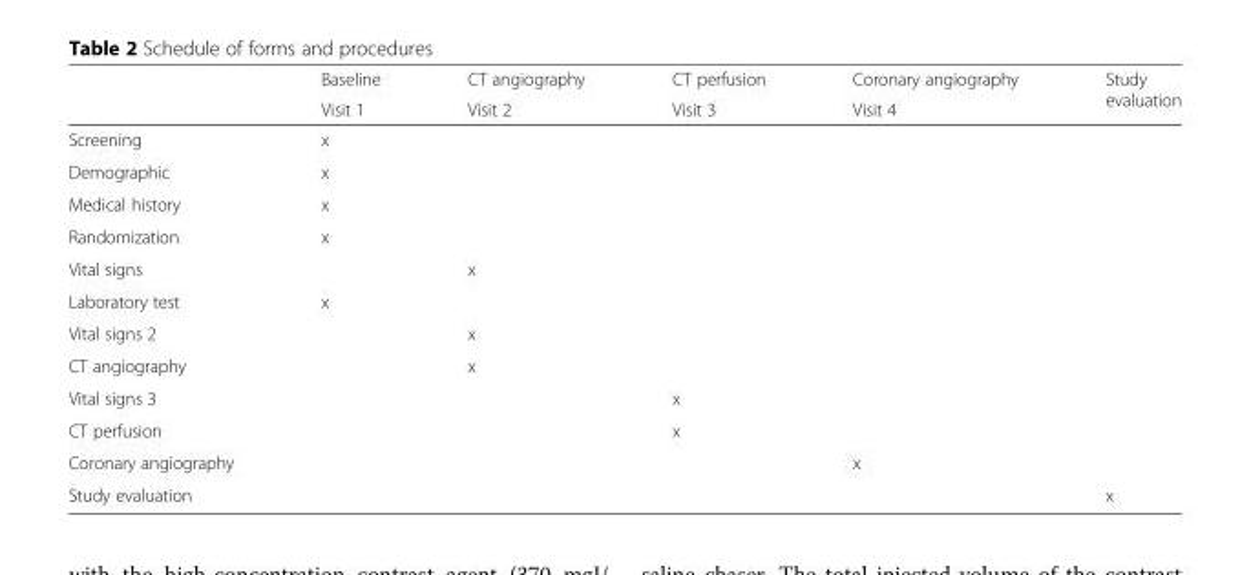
<table><thead><tr><td rowspan="2"></td><td rowspan="2">Baseline Visit 1</td><td rowspan="2">CT angiography Visit 2</td><td rowspan="2">CT perfusion Visit 3</td><td rowspan="2">Coronary angiography Visit 4</td><td rowspan="2">Study evaluation</td></tr><tr></tr></thead><tbody><tr><td>Screening</td><td>x</td><td></td><td></td><td></td><td></td></tr><tr><td>Demographic</td><td>x</td><td></td><td></td><td></td><td></td></tr><tr><td>Medical history</td><td>x</td><td></td><td></td><td></td><td></td></tr><tr><td>Randomization</td><td>x</td><td></td><td></td><td></td><td></td></tr><tr><td>Vital signs</td><td></td><td>x</td><td></td><td></td><td></td></tr><tr><td>Laboratory test</td><td>x</td><td></td><td></td><td></td><td></td></tr><tr><td>Vital signs 2</td><td></td><td>x</td><td></td><td></td><td></td></tr><tr><td>CT angiography</td><td></td><td>x</td><td></td><td></td><td></td></tr><tr><td>Vital signs 3</td><td></td><td></td><td>x</td><td></td><td></td></tr><tr><td>CT perfusion</td><td></td><td></td><td>x</td><td></td><td></td></tr><tr><td>Coronary angiography</td><td></td><td></td><td></td><td>x</td><td></td></tr><tr><td>Study evaluation</td><td></td><td></td><td></td><td></td><td>x</td></tr></tbody></table>